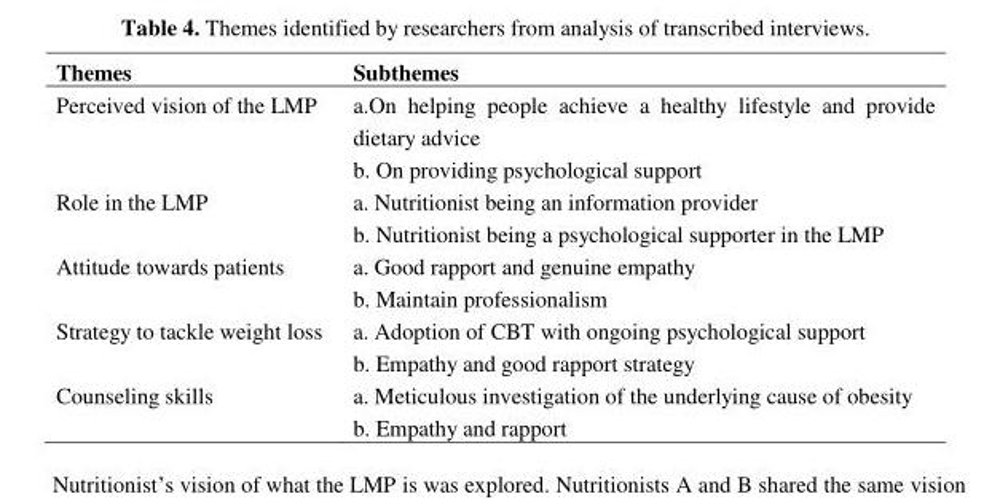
<table><thead><tr><td>Themes</td><td>Subthemes</td></tr></thead><tbody><tr><td>Perceived vision of the LMP</td><td>a.On helping people achieve a healthy lifestyle and provide dietary advice b. On providing psychological support</td></tr><tr><td>Role in the LMP</td><td>a. Nutritionist being an information provider b. Nutritionist being a psychological supporter in the LMP</td></tr><tr><td>Attitude towards patients</td><td>a. Good rapport and genuine empathy b. Maintain professionalism</td></tr><tr><td>Strategy to tackle weight loss</td><td>a. Adoption of CBT with ongoing psychological support b. Empathy and good rapport strategy</td></tr><tr><td>Counseling skills</td><td>a. Meticulous investigation of the underlying cause of obesity b. Empathy and rapport</td></tr></tbody></table>